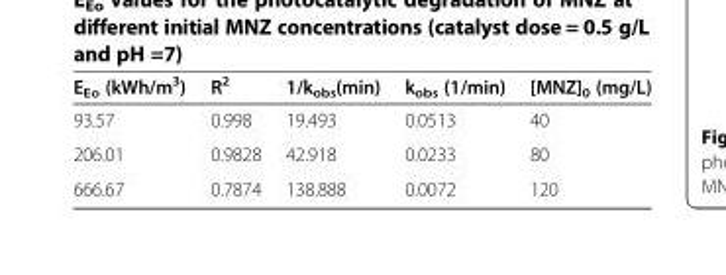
<table><thead><tr><td>E<sub>Eo</sub> (kWh/m<sup>3</sup>)</td><td>R<sup>2</sup></td><td>1/k<sub>obs</sub>(min)</td><td>k<sub>obs</sub> (1/min)</td><td>[MNZ]<sub>0</sub> (mg/L)</td></tr></thead><tbody><tr><td>93.57</td><td>0.998</td><td>19.493</td><td>0.0513</td><td>40</td></tr><tr><td>206.01</td><td>0.9828</td><td>42.918</td><td>0.0233</td><td>80</td></tr><tr><td>666.67</td><td>0.7874</td><td>138.888</td><td>0.0072</td><td>120</td></tr></tbody></table>